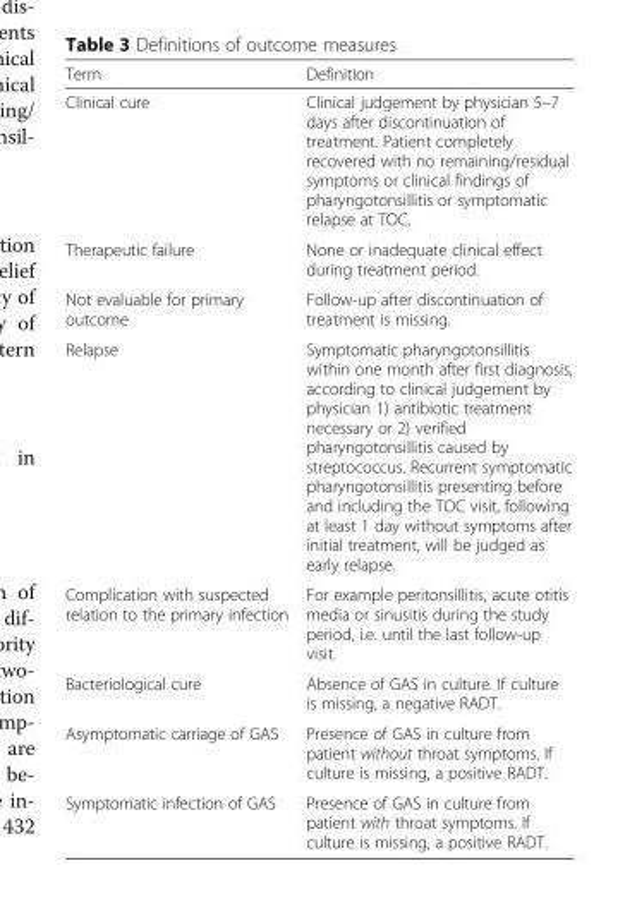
<table><thead><tr><td>Term</td><td>Definition</td></tr></thead><tbody><tr><td>Clinical cure</td><td>Clinical judgement by physician 5–7 days after discontinuation of treatment. Patient completely recovered with no remaining/residual symptoms or clinical findings of pharyngotonsillitis or symptomatic relapse at TOC.</td></tr><tr><td>Therapeutic failure</td><td>None or inadequate clinical effect during treatment period.</td></tr><tr><td>Not evaluable for primary outcome</td><td>Follow-up after discontinuation of treatment is missing.</td></tr><tr><td>Relapse</td><td>Symptomatic pharyngotonsillitis within one month after first diagnosis, according to clinical judgement by physician 1) antibiotic treatment necessary or 2) verified pharyngotonsillitis caused by streptococcus. Recurrent symptomatic pharyngotonsillitis presenting before and including the TOC visit, following at least 1 day without symptoms after initial treatment, will be judged as early relapse.</td></tr><tr><td>Complication with suspected relation to the primary infection</td><td>For example peritonsillitis, acute otitis media or sinusitis during the study period, i.e. until the last follow-up visit.</td></tr><tr><td>Bacteriological cure</td><td>Absence of GAS in culture. If culture is missing, a negative RADT.</td></tr><tr><td>Asymptomatic carriage of GAS</td><td>Presence of GAS in culture from patient without throat symptoms. If culture is missing, a positive RADT.</td></tr><tr><td>Symptomatic infection of GAS</td><td>Presence of GAS in culture from patient with throat symptoms. If culture is missing, a positive RADT.</td></tr></tbody></table>